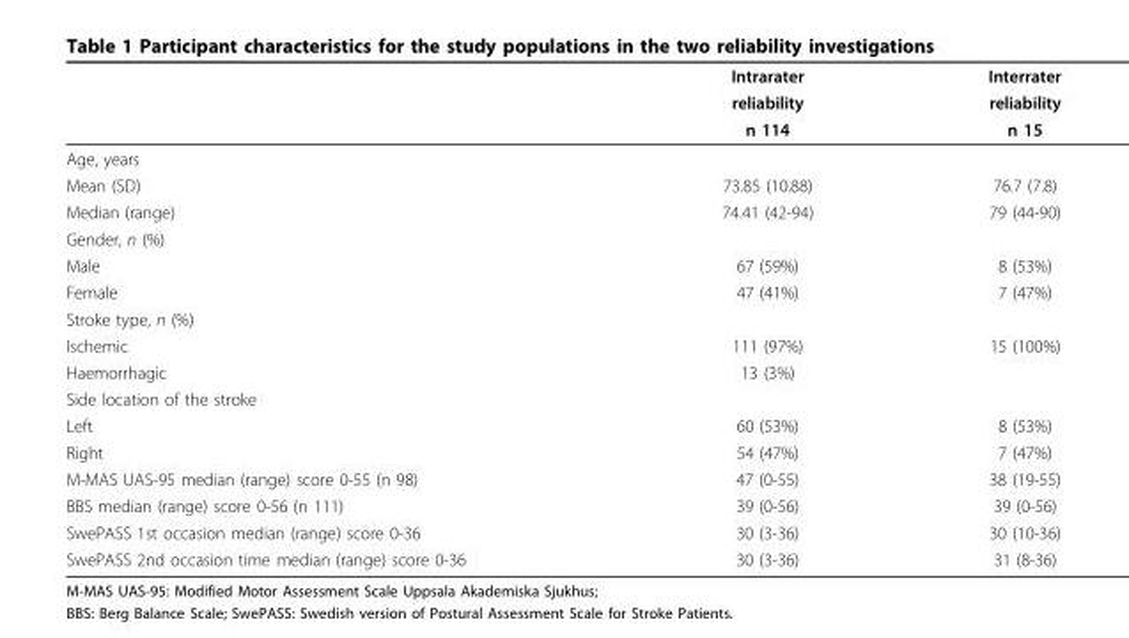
<table><thead><tr><td rowspan="3"></td><td rowspan="3">Intrarater reliability n 114</td><td rowspan="3">Interrater reliability n 15</td></tr><tr></tr><tr></tr></thead><tbody><tr><td colspan="3">Age, years</td></tr><tr><td>Mean (SD)</td><td>73.85 (10.88)</td><td>76.7 (7.8)</td></tr><tr><td>Median (range)</td><td>74.41 (42-94)</td><td>79 (44-90)</td></tr><tr><td colspan="3">Gender, n (%)</td></tr><tr><td>Male</td><td>67 (59%)</td><td>8 (53%)</td></tr><tr><td>Female</td><td>47 (41%)</td><td>7 (47%)</td></tr><tr><td colspan="3">Stroke type, n (%)</td></tr><tr><td>Ischemic</td><td>111 (97%)</td><td>15 (100%)</td></tr><tr><td>Haemorrhagic</td><td>13 (3%)</td><td></td></tr><tr><td colspan="3">Side location of the stroke</td></tr><tr><td>Left</td><td>60 (53%)</td><td>8 (53%)</td></tr><tr><td>Right</td><td>54 (47%)</td><td>7 (47%)</td></tr><tr><td>M-MAS UAS-95 median (range) score 0-55 (n 98)</td><td>47 (0-55)</td><td>38 (19-55)</td></tr><tr><td>BBS median (range) score 0-56 (n 111)</td><td>39 (0-56)</td><td>39 (0-56)</td></tr><tr><td>SwePASS 1st occasion median (range) score 0-36</td><td>30 (3-36)</td><td>30 (10-36)</td></tr><tr><td>SwePASS 2nd occasion time median (range) score 0-36</td><td>30 (3-36)</td><td>31 (8-36)</td></tr></tbody></table>